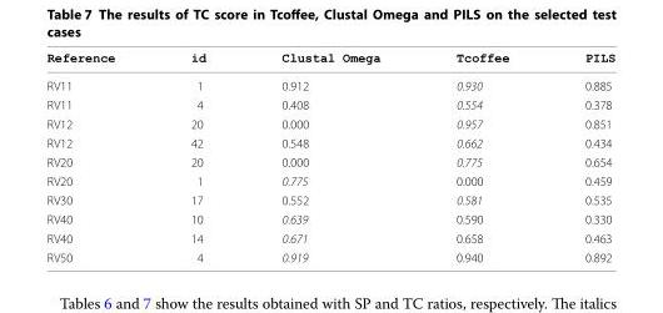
<table><thead><tr><td>Reference</td><td>id</td><td>Clustal Omega</td><td>Tcoffee</td><td>PILS</td></tr></thead><tbody><tr><td>RV11</td><td>1</td><td>0.912</td><td>0.930</td><td>0.885</td></tr><tr><td>RV11</td><td>4</td><td>0.408</td><td>0.554</td><td>0.378</td></tr><tr><td>RV12</td><td>20</td><td>0.000</td><td>0.957</td><td>0.851</td></tr><tr><td>RV12</td><td>42</td><td>0.548</td><td>0.662</td><td>0.434</td></tr><tr><td>RV20</td><td>20</td><td>0.000</td><td>0.775</td><td>0.654</td></tr><tr><td>RV20</td><td>1</td><td>0.775</td><td>0.000</td><td>0.459</td></tr><tr><td>RV30</td><td>17</td><td>0.552</td><td>0.581</td><td>0.535</td></tr><tr><td>RV40</td><td>10</td><td>0.639</td><td>0.590</td><td>0.330</td></tr><tr><td>RV40</td><td>14</td><td>0.671</td><td>0.658</td><td>0.463</td></tr><tr><td>RV50</td><td>4</td><td>0.919</td><td>0.940</td><td>0.892</td></tr></tbody></table>